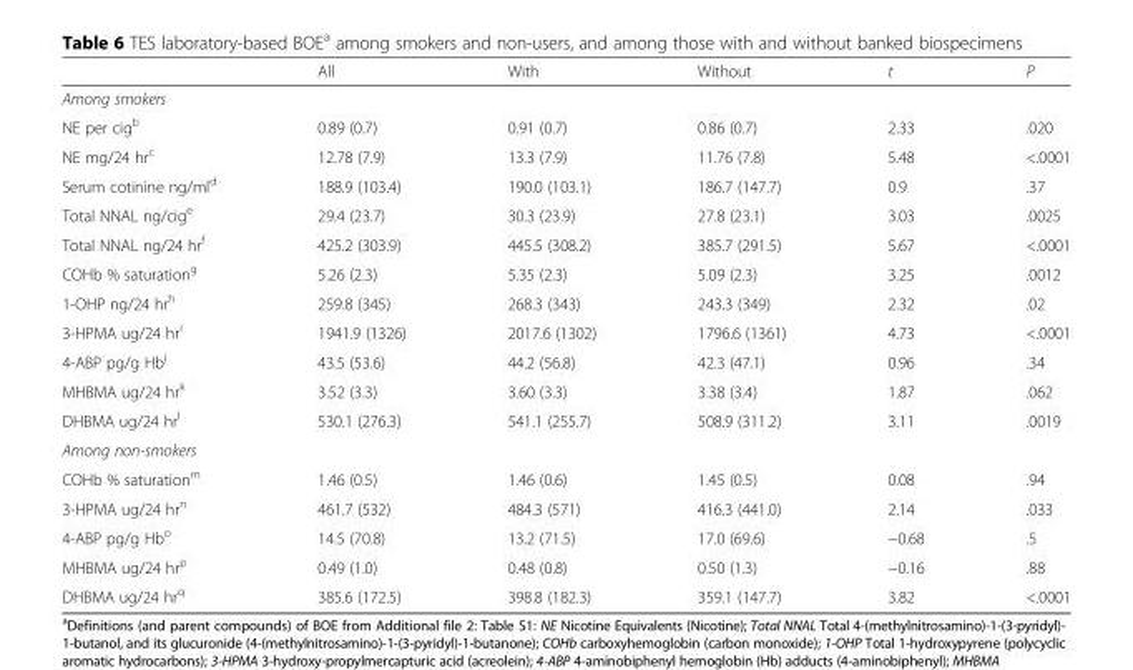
<table><thead><tr><td></td><td>All</td><td>With</td><td>Without</td><td>t</td><td>P</td></tr></thead><tbody><tr><td colspan="6">Among smokers</td></tr><tr><td>NE per cig<sup>b</sup></td><td>0.89 (0.7)</td><td>0.91 (0.7)</td><td>0.86 (0.7)</td><td>2.33</td><td>.020</td></tr><tr><td>NE mg/24 hr<sup>c</sup></td><td>12.78 (7.9)</td><td>13.3 (7.9)</td><td>11.76 (7.8)</td><td>5.48</td><td>&lt;.0001</td></tr><tr><td>Serum cotinine ng/ml<sup>d</sup></td><td>188.9 (103.4)</td><td>190.0 (103.1)</td><td>186.7 (147.7)</td><td>0.9</td><td>.37</td></tr><tr><td>Total NNAL ng/cig<sup>e</sup></td><td>29.4 (23.7)</td><td>30.3 (23.9)</td><td>27.8 (23.1)</td><td>3.03</td><td>.0025</td></tr><tr><td>Total NNAL ng/24 hr<sup>f</sup></td><td>425.2 (303.9)</td><td>445.5 (308.2)</td><td>385.7 (291.5)</td><td>5.67</td><td>&lt;.0001</td></tr><tr><td>COHb % saturation<sup>g</sup></td><td>5.26 (2.3)</td><td>5.35 (2.3)</td><td>5.09 (2.3)</td><td>3.25</td><td>.0012</td></tr><tr><td>1-OHP ng/24 hr<sup>h</sup></td><td>259.8 (345)</td><td>268.3 (343)</td><td>243.3 (349)</td><td>2.32</td><td>.02</td></tr><tr><td>3-HPMA ug/24 hr<sup>i</sup></td><td>1941.9 (1326)</td><td>2017.6 (1302)</td><td>1796.6 (1361)</td><td>4.73</td><td>&lt;.0001</td></tr><tr><td>4-ABP pg/g Hb<sup>j</sup></td><td>43.5 (53.6)</td><td>44.2 (56.8)</td><td>42.3 (47.1)</td><td>0.96</td><td>.34</td></tr><tr><td>MHBMA ug/24 hr<sup>k</sup></td><td>3.52 (3.3)</td><td>3.60 (3.3)</td><td>3.38 (3.4)</td><td>1.87</td><td>.062</td></tr><tr><td>DHBMA ug/24 hr<sup>l</sup></td><td>530.1 (276.3)</td><td>541.1 (255.7)</td><td>508.9 (311.2)</td><td>3.11</td><td>.0019</td></tr><tr><td colspan="6">Among non-smokers</td></tr><tr><td>COHb % saturation<sup>m</sup></td><td>1.46 (0.5)</td><td>1.46 (0.6)</td><td>1.45 (0.5)</td><td>0.08</td><td>.94</td></tr><tr><td>3-HPMA ug/24 hr<sup>n</sup></td><td>461.7 (532)</td><td>484.3 (571)</td><td>416.3 (441.0)</td><td>2.14</td><td>.033</td></tr><tr><td>4-ABP pg/g Hb<sup>o</sup></td><td>14.5 (70.8)</td><td>13.2 (71.5)</td><td>17.0 (69.6)</td><td>−0.68</td><td>.5</td></tr><tr><td>MHBMA ug/24 hr<sup>p</sup></td><td>0.49 (1.0)</td><td>0.48 (0.8)</td><td>0.50 (1.3)</td><td>−0.16</td><td>.88</td></tr><tr><td>DHBMA ug/24 hr<sup>q</sup></td><td>385.6 (172.5)</td><td>398.8 (182.3)</td><td>359.1 (147.7)</td><td>3.82</td><td>&lt;.0001</td></tr></tbody></table>